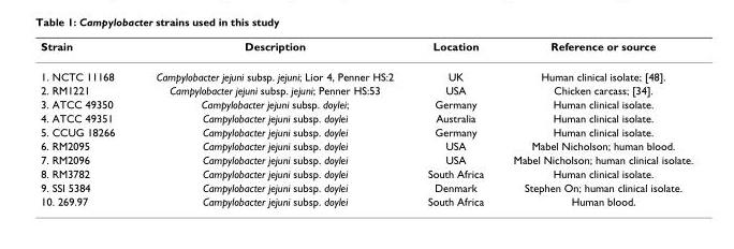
<table><thead><tr><td>Strain</td><td>Description</td><td>Location</td><td>Reference or source</td></tr></thead><tbody><tr><td>1. NCTC 11168</td><td>Campylobacter jejuni subsp. jejuni; Lior 4, Penner HS:2</td><td>UK</td><td>Human clinical isolate; [48].</td></tr><tr><td>2. RM1221</td><td>Campylobacter jejuni subsp. jejuni; Penner HS:53</td><td>USA</td><td>Chicken carcass; [34].</td></tr><tr><td>3. ATCC 49350</td><td>Campylobacter jejuni subsp. doylei;</td><td>Germany</td><td>Human clinical isolate.</td></tr><tr><td>4. ATCC 49351</td><td>Campylobacter jejuni subsp. doylei</td><td>Australia</td><td>Human clinical isolate.</td></tr><tr><td>5. CCUG 18266</td><td>Campylobacter jejuni subsp. doylei</td><td>Germany</td><td>Human clinical isolate.</td></tr><tr><td>6. RM2095</td><td>Campylobacter jejuni subsp. doylei</td><td>USA</td><td>Mabel Nicholson; human blood.</td></tr><tr><td>7. RM2096</td><td>Campylobacter jejuni subsp. doylei</td><td>USA</td><td>Mabel Nicholson; human clinical isolate.</td></tr><tr><td>8. RM3782</td><td>Campylobacter jejuni subsp. doylei</td><td>South Africa</td><td>Human clinical isolate.</td></tr><tr><td>9. SSI 5384</td><td>Campylobacter jejuni subsp. doylei</td><td>Denmark</td><td>Stephen On; human clinical isolate.</td></tr><tr><td>10. 269.97</td><td>Campylobacter jejuni subsp. doylei</td><td>South Africa</td><td>Human blood.</td></tr></tbody></table>